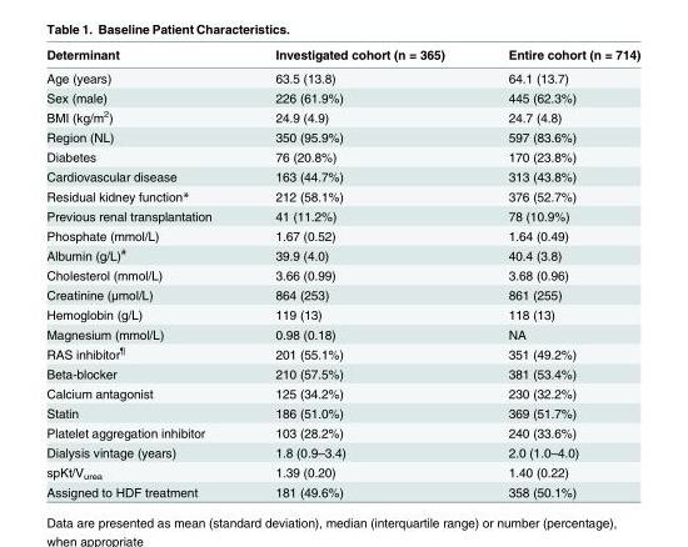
<table><thead><tr><td>Determinant</td><td>Investigated cohort (n = 365)</td><td>Entire cohort (n = 714)</td></tr></thead><tbody><tr><td>Age (years)</td><td>63.5 (13.8)</td><td>64.1 (13.7)</td></tr><tr><td>Sex (male)</td><td>226 (61.9%)</td><td>445 (62.3%)</td></tr><tr><td>BMI (kg/m<sup>2</sup>)</td><td>24.9 (4.9)</td><td>24.7 (4.8)</td></tr><tr><td>Region (NL)</td><td>350 (95.9%)</td><td>597 (83.6%)</td></tr><tr><td>Diabetes</td><td>76 (20.8%)</td><td>170 (23.8%)</td></tr><tr><td>Cardiovascular disease</td><td>163 (44.7%)</td><td>313 (43.8%)</td></tr><tr><td>Residual kidney function*</td><td>212 (58.1%)</td><td>376 (52.7%)</td></tr><tr><td>Previous renal transplantation</td><td>41 (11.2%)</td><td>78 (10.9%)</td></tr><tr><td>Phosphate (mmol/L)</td><td>1.67 (0.52)</td><td>1.64 (0.49)</td></tr><tr><td>Albumin (g/L)<sup>#</sup></td><td>39.9 (4.0)</td><td>40.4 (3.8)</td></tr><tr><td>Cholesterol (mmol/L)</td><td>3.66 (0.99)</td><td>3.68 (0.96)</td></tr><tr><td>Creatinine (μmol/L)</td><td>864 (253)</td><td>861 (255)</td></tr><tr><td>Hemoglobin (g/L)</td><td>119 (13)</td><td>118 (13)</td></tr><tr><td>Magnesium (mmol/L)</td><td>0.98 (0.18)</td><td>NA</td></tr><tr><td>RAS inhibitor<sup>¶</sup></td><td>201 (55.1%)</td><td>351 (49.2%)</td></tr><tr><td>Beta-blocker</td><td>210 (57.5%)</td><td>381 (53.4%)</td></tr><tr><td>Calcium antagonist</td><td>125 (34.2%)</td><td>230 (32.2%)</td></tr><tr><td>Statin</td><td>186 (51.0%)</td><td>369 (51.7%)</td></tr><tr><td>Platelet aggregation inhibitor</td><td>103 (28.2%)</td><td>240 (33.6%)</td></tr><tr><td>Dialysis vintage (years)</td><td>1.8 (0.9–3.4)</td><td>2.0 (1.0–4.0)</td></tr><tr><td>spKt/V<sub>urea</sub></td><td>1.39 (0.20)</td><td>1.40 (0.22)</td></tr><tr><td>Assigned to HDF treatment</td><td>181 (49.6%)</td><td>358 (50.1%)</td></tr></tbody></table>